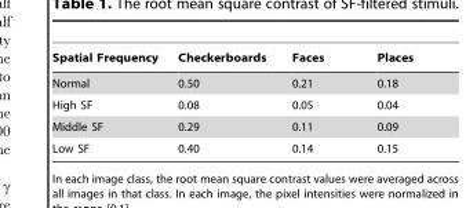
<table><thead><tr><td>Spatial Frequency</td><td>Checkerboards</td><td>Faces</td><td>Places</td></tr></thead><tbody><tr><td>Normal</td><td>0.50</td><td>0.21</td><td>0.18</td></tr><tr><td>High SF</td><td>0.08</td><td>0.05</td><td>0.04</td></tr><tr><td>Middle SF</td><td>0.29</td><td>0.11</td><td>0.09</td></tr><tr><td>Low SF</td><td>0.40</td><td>0.14</td><td>0.15</td></tr></tbody></table>